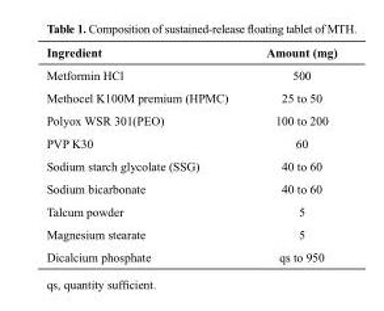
<table><thead><tr><td>Ingredient</td><td>Amount (mg)</td></tr></thead><tbody><tr><td>Metformin HCl</td><td>500</td></tr><tr><td>Methocel K100M premium (HPMC)</td><td>25 to 50</td></tr><tr><td>Polyox WSR 301(PEO)</td><td>100 to 200</td></tr><tr><td>PVP K30</td><td>60</td></tr><tr><td>Sodium starch glycolate (SSG)</td><td>40 to 60</td></tr><tr><td>Sodium bicarbonate</td><td>40 to 60</td></tr><tr><td>Talcum powder</td><td>5</td></tr><tr><td>Magnesium stearate</td><td>5</td></tr><tr><td>Dicalcium phosphate</td><td>qs to 950</td></tr></tbody></table>